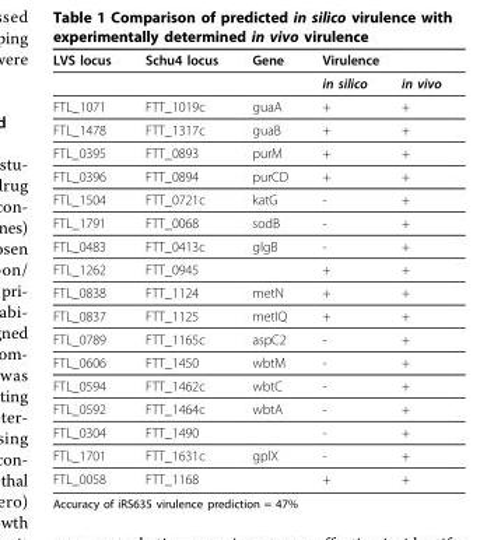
<table><thead><tr><td rowspan="2">LVS locus</td><td rowspan="2">Schu4 locus</td><td rowspan="2">Gene</td><td colspan="2">Virulence</td></tr><tr><td>in silico</td><td>in vivo</td></tr></thead><tbody><tr><td>FTL_1071</td><td>FTT_1019c</td><td>guaA</td><td>+</td><td>+</td></tr><tr><td>FTL_1478</td><td>FTT_1317c</td><td>guaB</td><td>+</td><td>+</td></tr><tr><td>FTL_0395</td><td>FTT_0893</td><td>purM</td><td>+</td><td>+</td></tr><tr><td>FTL_0396</td><td>FTT_0894</td><td>purCD</td><td>+</td><td>+</td></tr><tr><td>FTL_1504</td><td>FTT_0721c</td><td>katG</td><td>-</td><td>+</td></tr><tr><td>FTL_1791</td><td>FTT_0068</td><td>sodB</td><td>-</td><td>+</td></tr><tr><td>FTL_0483</td><td>FTT_0413c</td><td>glgB</td><td>-</td><td>+</td></tr><tr><td>FTL_1262</td><td>FTT_0945</td><td></td><td>+</td><td>+</td></tr><tr><td>FTL_0838</td><td>FTT_1124</td><td>metN</td><td>+</td><td>+</td></tr><tr><td>FTL_0837</td><td>FTT_1125</td><td>metIQ</td><td>+</td><td>+</td></tr><tr><td>FTL_0789</td><td>FTT_1165c</td><td>aspC2</td><td>-</td><td>+</td></tr><tr><td>FTL_0606</td><td>FTT_1450</td><td>wbtM</td><td>-</td><td>+</td></tr><tr><td>FTL_0594</td><td>FTT_1462c</td><td>wbtC</td><td>-</td><td>+</td></tr><tr><td>FTL_0592</td><td>FTT_1464c</td><td>wbtA</td><td>-</td><td>+</td></tr><tr><td>FTL_0304</td><td>FTT_1490</td><td></td><td>-</td><td>+</td></tr><tr><td>FTL_1701</td><td>FTT_1631c</td><td>gplX</td><td>-</td><td>+</td></tr><tr><td>FTL_0058</td><td>FTT_1168</td><td></td><td>+</td><td>+</td></tr></tbody></table>